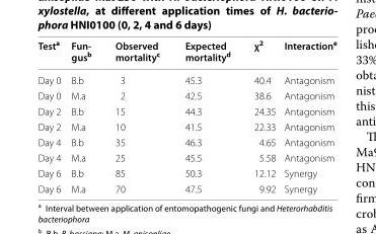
<table><thead><tr><td>Test<sup>a</sup></td><td>Fun- gusb</td><td>Observed mortality<sup>c</sup></td><td>Expected mortality<sup>d</sup></td><td>χ<sup>2</sup></td><td>Interaction<sup>e</sup></td></tr></thead><tbody><tr><td>Day 0</td><td>B.b</td><td>3</td><td>45.3</td><td>40.4</td><td>Antagonism</td></tr><tr><td>Day 0</td><td>M.a</td><td>2</td><td>42.5</td><td>38.6</td><td>Antagonism</td></tr><tr><td>Day 2</td><td>B.b</td><td>15</td><td>44.3</td><td>24.35</td><td>Antagonism</td></tr><tr><td>Day 2</td><td>M.a</td><td>10</td><td>41.5</td><td>22.33</td><td>Antagonism</td></tr><tr><td>Day 4</td><td>B.b</td><td>35</td><td>46.3</td><td>4.65</td><td>Antagonism</td></tr><tr><td>Day 4</td><td>M.a</td><td>25</td><td>45.5</td><td>5.58</td><td>Antagonism</td></tr><tr><td>Day 6</td><td>B.b</td><td>85</td><td>50.3</td><td>12.12</td><td>Synergy</td></tr><tr><td>Day 6</td><td>M.a</td><td>70</td><td>47.5</td><td>9.92</td><td>Synergy</td></tr></tbody></table>